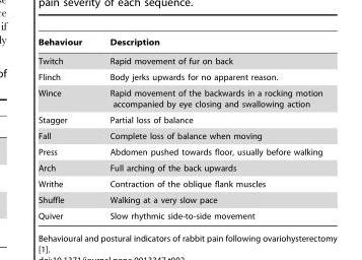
<table><thead><tr><td>Behaviour</td><td>Description</td></tr></thead><tbody><tr><td>Twitch</td><td>Rapid movement of fur on back</td></tr><tr><td>Flinch</td><td>Body jerks upwards for no apparent reason.</td></tr><tr><td>Wince</td><td>Rapid movement of the backwards in a rocking motion accompanied by eye closing and swallowing action</td></tr><tr><td>Stagger</td><td>Partial loss of balance</td></tr><tr><td>Fall</td><td>Complete loss of balance when moving</td></tr><tr><td>Press</td><td>Abdomen pushed towards floor, usually before walking</td></tr><tr><td>Arch</td><td>Full arching of the back upwards</td></tr><tr><td>Writhe</td><td>Contraction of the oblique flank muscles</td></tr><tr><td>Shuffle</td><td>Walking at a very slow pace</td></tr><tr><td>Quiver</td><td>Slow rhythmic side-to-side movement</td></tr></tbody></table>